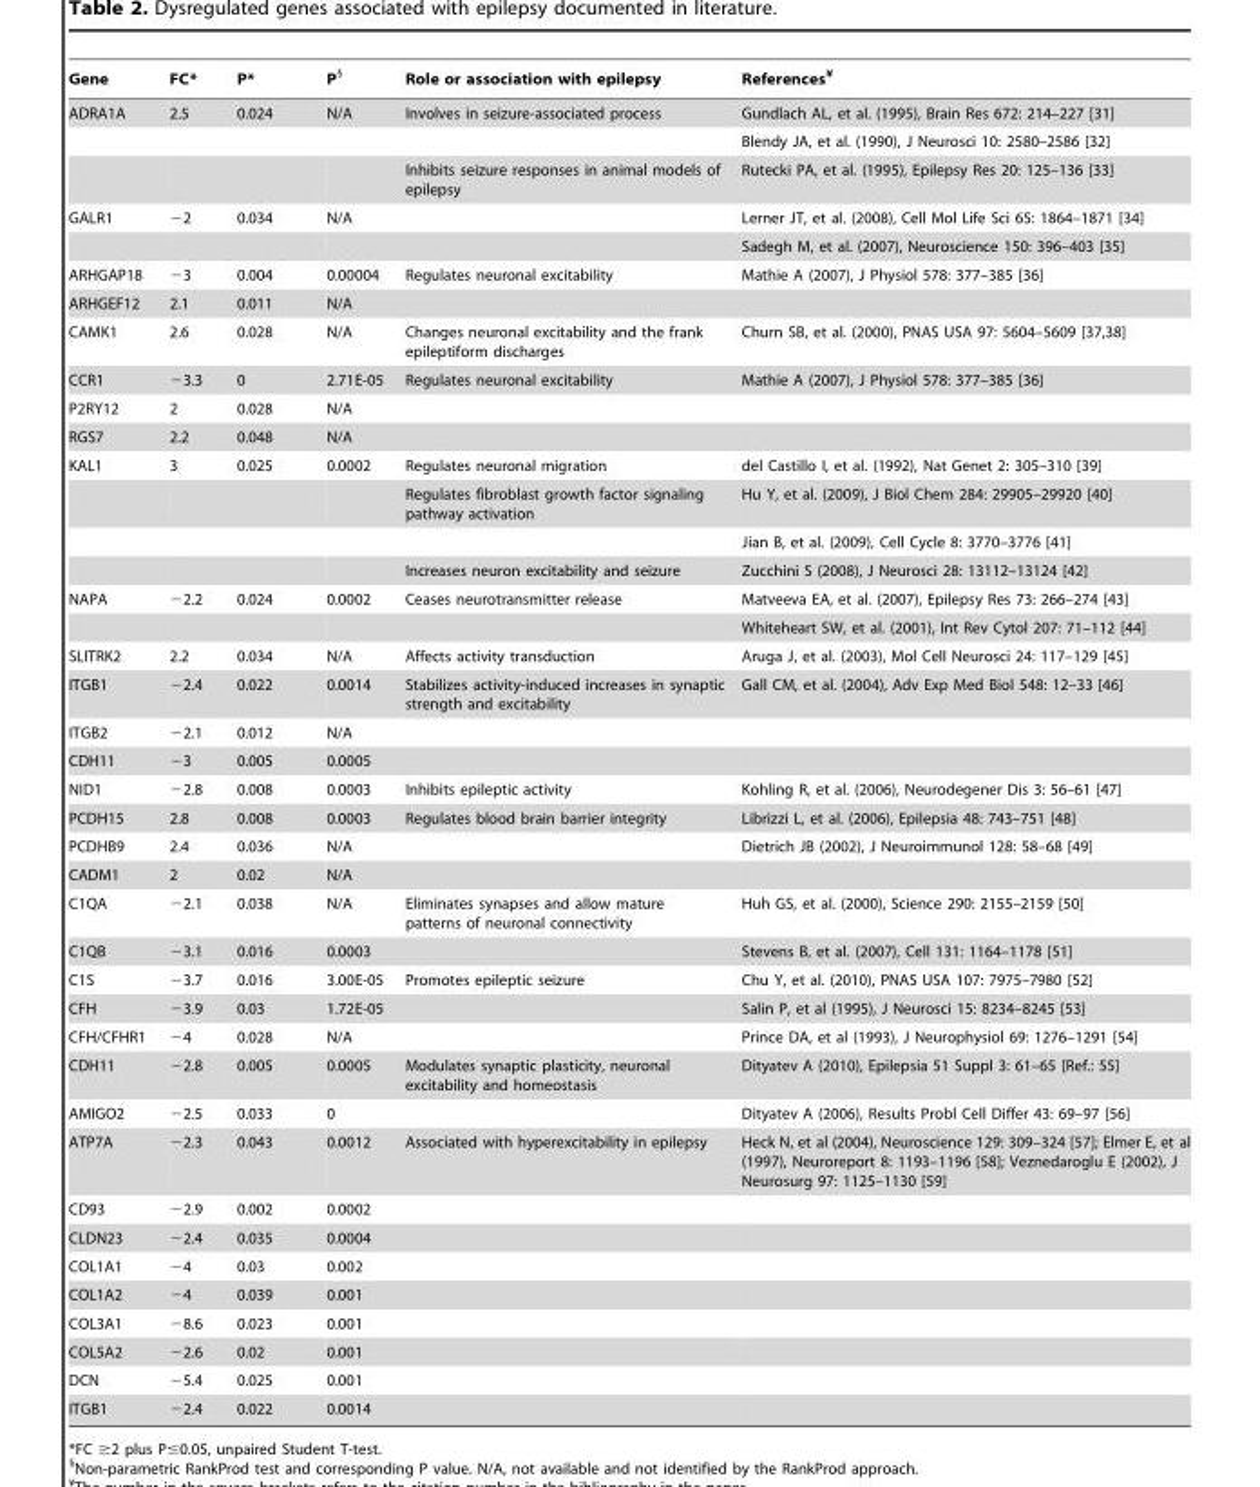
<table><thead><tr><td>Gene</td><td>FC*</td><td>P*</td><td>P§</td><td>Role or association with epilepsy</td><td>References¥</td></tr></thead><tbody><tr><td rowspan="3">ADRA1A</td><td>2.5</td><td>0.024</td><td>N/A</td><td>Involves in seizure-associated process</td><td>Gundlach AL, et al. (1995), Brain Res 672: 214–227 [31]</td></tr><tr><td></td><td></td><td></td><td></td><td>Blendy JA, et al. (1990), J Neurosci 10: 2580–2586 [32]</td></tr><tr><td></td><td></td><td></td><td>Inhibits seizure responses in animal models of epilepsy</td><td>Rutecki PA, et al. (1995), Epilepsy Res 20: 125–136 [33]</td></tr><tr><td rowspan="2">GALR1</td><td>−2</td><td>0.034</td><td>N/A</td><td></td><td>Lerner JT, et al. (2008), Cell Mol Life Sci 65: 1864–1871 [34]</td></tr><tr><td></td><td></td><td></td><td></td><td>Sadegh M, et al. (2007), Neuroscience 150: 396–403 [35]</td></tr><tr><td>ARHGAP18</td><td>−3</td><td>0.004</td><td>0.00004</td><td>Regulates neuronal excitability</td><td>Mathie A (2007), J Physiol 578: 377–385 [36]</td></tr><tr><td>ARHGEF12</td><td>2.1</td><td>0.011</td><td>N/A</td><td></td><td></td></tr><tr><td>CAMK1</td><td>2.6</td><td>0.028</td><td>N/A</td><td>Changes neuronal excitability and the frank epileptiform discharges</td><td>Churn SB, et al. (2000), PNAS USA 97: 5604–5609 [37,38]</td></tr><tr><td>CCR1</td><td>−3.3</td><td>0</td><td>2.71E-05</td><td>Regulates neuronal excitability</td><td>Mathie A (2007), J Physiol 578: 377–385 [36]</td></tr><tr><td>P2RY12</td><td>2</td><td>0.028</td><td>N/A</td><td></td><td></td></tr><tr><td>RGS7</td><td>2.2</td><td>0.048</td><td>N/A</td><td></td><td></td></tr><tr><td rowspan="4">KAL1</td><td>3</td><td>0.025</td><td>0.0002</td><td>Regulates neuronal migration</td><td>del Castillo I, et al. (1992), Nat Genet 2: 305–310 [39]</td></tr><tr><td></td><td></td><td></td><td>Regulates fibroblast growth factor signaling pathway activation</td><td>Hu Y, et al. (2009), J Biol Chem 284: 29905–29920 [40]</td></tr><tr><td></td><td></td><td></td><td></td><td>Jian B, et al. (2009), Cell Cycle 8: 3770–3776 [41]</td></tr><tr><td></td><td></td><td></td><td>Increases neuron excitability and seizure</td><td>Zucchini S (2008), J Neurosci 28: 13112–13124 [42]</td></tr><tr><td rowspan="2">NAPA</td><td>−2.2</td><td>0.024</td><td>0.0002</td><td>Ceases neurotransmitter release</td><td>Matveeva EA, et al. (2007), Epilepsy Res 73: 266–274 [43]</td></tr><tr><td></td><td></td><td></td><td></td><td>Whiteheart SW, et al. (2001), Int Rev Cytol 207: 71–112 [44]</td></tr><tr><td>SLITRK2</td><td>2.2</td><td>0.034</td><td>N/A</td><td>Affects activity transduction</td><td>Aruga J, et al. (2003), Mol Cell Neurosci 24: 117–129 [45]</td></tr><tr><td>ITGB1</td><td>−2.4</td><td>0.022</td><td>0.0014</td><td>Stabilizes activity-induced increases in synaptic strength and excitability</td><td>Gall CM, et al. (2004), Adv Exp Med Biol 548: 12–33 [46]</td></tr><tr><td>ITGB2</td><td>−2.1</td><td>0.012</td><td>N/A</td><td></td><td></td></tr><tr><td>CDH11</td><td>−3</td><td>0.005</td><td>0.0005</td><td></td><td></td></tr><tr><td>NID1</td><td>−2.8</td><td>0.008</td><td>0.0003</td><td>Inhibits epileptic activity</td><td>Kohling R, et al. (2006), Neurodegener Dis 3: 56–61 [47]</td></tr><tr><td>PCDH15</td><td>2.8</td><td>0.008</td><td>0.0003</td><td>Regulates blood brain barrier integrity</td><td>Librizzi L, et al. (2006), Epilepsia 48: 743–751 [48]</td></tr><tr><td>PCDHB9</td><td>2.4</td><td>0.036</td><td>N/A</td><td></td><td>Dietrich JB (2002), J Neuroimmunol 128: 58–68 [49]</td></tr><tr><td>CADM1</td><td>2</td><td>0.02</td><td>N/A</td><td></td><td></td></tr><tr><td>C1QA</td><td>−2.1</td><td>0.038</td><td>N/A</td><td>Eliminates synapses and allow mature patterns of neuronal connectivity</td><td>Huh GS, et al. (2000), Science 290: 2155–2159 [50]</td></tr><tr><td>C1QB</td><td>−3.1</td><td>0.016</td><td>0.0003</td><td></td><td>Stevens B, et al. (2007), Cell 131: 1164–1178 [51]</td></tr><tr><td>C1S</td><td>−3.7</td><td>0.016</td><td>3.00E-05</td><td>Promotes epileptic seizure</td><td>Chu Y, et al. (2010), PNAS USA 107: 7975–7980 [52]</td></tr><tr><td>CFH</td><td>−3.9</td><td>0.03</td><td>1.72E-05</td><td></td><td>Salin P, et al (1995), J Neurosci 15: 8234–8245 [53]</td></tr><tr><td>CFH/CFHR1</td><td>−4</td><td>0.028</td><td>N/A</td><td></td><td>Prince DA, et al (1993), J Neurophysiol 69: 1276–1291 [54]</td></tr><tr><td>CDH11</td><td>−2.8</td><td>0.005</td><td>0.0005</td><td>Modulates synaptic plasticity, neuronal excitability and homeostasis</td><td>Dityatev A (2010), Epilepsia 51 Suppl 3: 61–65 [Ref.: 55]</td></tr><tr><td>AMIGO2</td><td>−2.5</td><td>0.033</td><td>0</td><td></td><td>Dityatev A (2006), Results Probl Cell Differ 43: 69–97 [56]</td></tr><tr><td>ATP7A</td><td>−2.3</td><td>0.043</td><td>0.0012</td><td>Associated with hyperexcitability in epilepsy</td><td>Heck N, et al (2004), Neuroscience 129: 309–324 [57]; Elmer E, et al (1997), Neuroreport 8: 1193–1196 [58]; Veznedaroglu E (2002), J Neurosurg 97: 1125–1130 [59]</td></tr><tr><td>CD93</td><td>−2.9</td><td>0.002</td><td>0.0002</td><td></td><td></td></tr><tr><td>CLDN23</td><td>−2.4</td><td>0.035</td><td>0.0004</td><td></td><td></td></tr><tr><td>COL1A1</td><td>−4</td><td>0.03</td><td>0.002</td><td></td><td></td></tr><tr><td>COL1A2</td><td>−4</td><td>0.039</td><td>0.001</td><td></td><td></td></tr><tr><td>COL3A1</td><td>−8.6</td><td>0.023</td><td>0.001</td><td></td><td></td></tr><tr><td>COL5A2</td><td>−2.6</td><td>0.02</td><td>0.001</td><td></td><td></td></tr><tr><td>DCN</td><td>−5.4</td><td>0.025</td><td>0.001</td><td></td><td></td></tr><tr><td>ITGB1</td><td>−2.4</td><td>0.022</td><td>0.0014</td><td></td><td></td></tr></tbody></table>